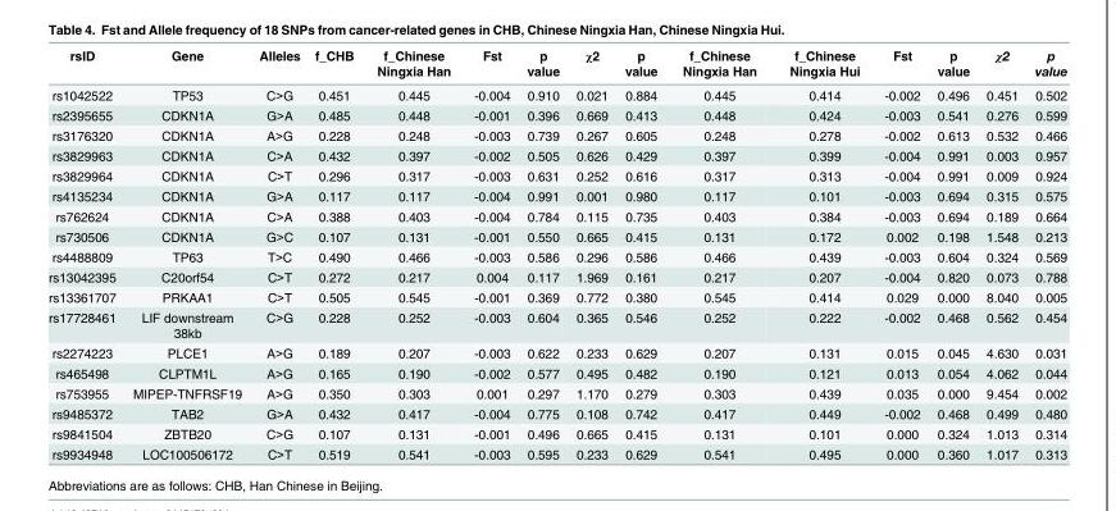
<table><thead><tr><td>rsID</td><td>Gene</td><td>Alleles</td><td>f_CHB</td><td>f_Chinese Ningxia Han</td><td>Fst</td><td>p value</td><td>χ2</td><td>p value</td><td>f_Chinese Ningxia Han</td><td>f_Chinese Ningxia Hui</td><td>Fst</td><td>p value</td><td>χ2</td><td>p value</td></tr></thead><tbody><tr><td>rs1042522</td><td>TP53</td><td>C&gt;G</td><td>0.451</td><td>0.445</td><td>-0.004</td><td>0.910</td><td>0.021</td><td>0.884</td><td>0.445</td><td>0.414</td><td>-0.002</td><td>0.496</td><td>0.451</td><td>0.502</td></tr><tr><td>rs2395655</td><td>CDKN1A</td><td>G&gt;A</td><td>0.485</td><td>0.448</td><td>-0.001</td><td>0.396</td><td>0.669</td><td>0.413</td><td>0.448</td><td>0.424</td><td>-0.003</td><td>0.541</td><td>0.276</td><td>0.599</td></tr><tr><td>rs3176320</td><td>CDKN1A</td><td>A&gt;G</td><td>0.228</td><td>0.248</td><td>-0.003</td><td>0.739</td><td>0.267</td><td>0.605</td><td>0.248</td><td>0.278</td><td>-0.002</td><td>0.613</td><td>0.532</td><td>0.466</td></tr><tr><td>rs3829963</td><td>CDKN1A</td><td>C&gt;A</td><td>0.432</td><td>0.397</td><td>-0.002</td><td>0.505</td><td>0.626</td><td>0.429</td><td>0.397</td><td>0.399</td><td>-0.004</td><td>0.991</td><td>0.003</td><td>0.957</td></tr><tr><td>rs3829964</td><td>CDKN1A</td><td>C&gt;T</td><td>0.296</td><td>0.317</td><td>-0.003</td><td>0.631</td><td>0.252</td><td>0.616</td><td>0.317</td><td>0.313</td><td>-0.004</td><td>0.991</td><td>0.009</td><td>0.924</td></tr><tr><td>rs4135234</td><td>CDKN1A</td><td>G&gt;A</td><td>0.117</td><td>0.117</td><td>-0.004</td><td>0.991</td><td>0.001</td><td>0.980</td><td>0.117</td><td>0.101</td><td>-0.003</td><td>0.694</td><td>0.315</td><td>0.575</td></tr><tr><td>rs762624</td><td>CDKN1A</td><td>C&gt;A</td><td>0.388</td><td>0.403</td><td>-0.004</td><td>0.784</td><td>0.115</td><td>0.735</td><td>0.403</td><td>0.384</td><td>-0.003</td><td>0.694</td><td>0.189</td><td>0.664</td></tr><tr><td>rs730506</td><td>CDKN1A</td><td>G&gt;C</td><td>0.107</td><td>0.131</td><td>-0.001</td><td>0.550</td><td>0.665</td><td>0.415</td><td>0.131</td><td>0.172</td><td>0.002</td><td>0.198</td><td>1.548</td><td>0.213</td></tr><tr><td>rs4488809</td><td>TP63</td><td>T&gt;C</td><td>0.490</td><td>0.466</td><td>-0.003</td><td>0.586</td><td>0.296</td><td>0.586</td><td>0.466</td><td>0.439</td><td>-0.003</td><td>0.604</td><td>0.324</td><td>0.569</td></tr><tr><td>rs13042395</td><td>C20orf54</td><td>C&gt;T</td><td>0.272</td><td>0.217</td><td>0.004</td><td>0.117</td><td>1.969</td><td>0.161</td><td>0.217</td><td>0.207</td><td>-0.004</td><td>0.820</td><td>0.073</td><td>0.788</td></tr><tr><td>rs13361707</td><td>PRKAA1</td><td>C&gt;T</td><td>0.505</td><td>0.545</td><td>-0.001</td><td>0.369</td><td>0.772</td><td>0.380</td><td>0.545</td><td>0.414</td><td>0.029</td><td>0.000</td><td>8.040</td><td>0.005</td></tr><tr><td>rs17728461</td><td>LIF downstream 38kb</td><td>C&gt;G</td><td>0.228</td><td>0.252</td><td>-0.003</td><td>0.604</td><td>0.365</td><td>0.546</td><td>0.252</td><td>0.222</td><td>-0.002</td><td>0.468</td><td>0.562</td><td>0.454</td></tr><tr><td>rs2274223</td><td>PLCE1</td><td>A&gt;G</td><td>0.189</td><td>0.207</td><td>-0.003</td><td>0.622</td><td>0.233</td><td>0.629</td><td>0.207</td><td>0.131</td><td>0.015</td><td>0.045</td><td>4.630</td><td>0.031</td></tr><tr><td>rs465498</td><td>CLPTM1L</td><td>A&gt;G</td><td>0.165</td><td>0.190</td><td>-0.002</td><td>0.577</td><td>0.495</td><td>0.482</td><td>0.190</td><td>0.121</td><td>0.013</td><td>0.054</td><td>4.062</td><td>0.044</td></tr><tr><td>rs753955</td><td>MIPEP-TNFRSF19</td><td>A&gt;G</td><td>0.350</td><td>0.303</td><td>0.001</td><td>0.297</td><td>1.170</td><td>0.279</td><td>0.303</td><td>0.439</td><td>0.035</td><td>0.000</td><td>9.454</td><td>0.002</td></tr><tr><td>rs9485372</td><td>TAB2</td><td>G&gt;A</td><td>0.432</td><td>0.417</td><td>-0.004</td><td>0.775</td><td>0.108</td><td>0.742</td><td>0.417</td><td>0.449</td><td>-0.002</td><td>0.468</td><td>0.499</td><td>0.480</td></tr><tr><td>rs9841504</td><td>ZBTB20</td><td>C&gt;G</td><td>0.107</td><td>0.131</td><td>-0.001</td><td>0.496</td><td>0.665</td><td>0.415</td><td>0.131</td><td>0.101</td><td>0.000</td><td>0.324</td><td>1.013</td><td>0.314</td></tr><tr><td>rs9934948</td><td>LOC100506172</td><td>C&gt;T</td><td>0.519</td><td>0.541</td><td>-0.003</td><td>0.595</td><td>0.233</td><td>0.629</td><td>0.541</td><td>0.495</td><td>0.000</td><td>0.360</td><td>1.017</td><td>0.313</td></tr></tbody></table>